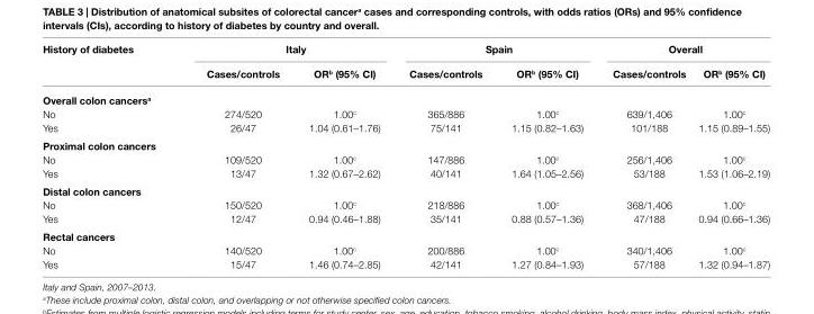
<table><thead><tr><td rowspan="2">history of diabetes</td><td colspan="2">italy</td><td colspan="2">spain</td><td colspan="2">Overall</td></tr><tr><td>cases/controls</td><td>Or<sup>b</sup> (95% ci)</td><td>cases/controls</td><td>Or<sup>b</sup> (95% ci)</td><td>cases/controls</td><td>Or<sup>b</sup> (95% ci)</td></tr></thead><tbody><tr><td colspan="7">Overall colon cancers<sup>a</sup></td></tr><tr><td>No</td><td>274/520</td><td>1.00<sup>c</sup></td><td>365/886</td><td>1.00<sup>c</sup></td><td>639/1,406</td><td>1.00<sup>c</sup></td></tr><tr><td>Yes</td><td>26/47</td><td>1.04 (0.61–1.76)</td><td>75/141</td><td>1.15 (0.82–1.63)</td><td>101/188</td><td>1.15 (0.89–1.55)</td></tr><tr><td colspan="7">Proximal colon cancers</td></tr><tr><td>No</td><td>109/520</td><td>1.00<sup>c</sup></td><td>147/886</td><td>1.00<sup>c</sup></td><td>256/1,406</td><td>1.00<sup>c</sup></td></tr><tr><td>Yes</td><td>13/47</td><td>1.32 (0.67–2.62)</td><td>40/141</td><td>1.64 (1.05–2.56)</td><td>53/188</td><td>1.53 (1.06–2.19)</td></tr><tr><td colspan="7">Distal colon cancers</td></tr><tr><td>No</td><td>150/520</td><td>1.00<sup>c</sup></td><td>218/886</td><td>1.00<sup>c</sup></td><td>368/1,406</td><td>1.00<sup>c</sup></td></tr><tr><td>Yes</td><td>12/47</td><td>0.94 (0.46–1.88)</td><td>35/141</td><td>0.88 (0.57–1.36)</td><td>47/188</td><td>0.94 (0.66–1.36)</td></tr><tr><td colspan="7">rectal cancers</td></tr><tr><td>No</td><td>140/520</td><td>1.00<sup>c</sup></td><td>200/886</td><td>1.00<sup>c</sup></td><td>340/1,406</td><td>1.00<sup>c</sup></td></tr><tr><td>Yes</td><td>15/47</td><td>1.46 (0.74–2.85)</td><td>42/141</td><td>1.27 (0.84–1.93)</td><td>57/188</td><td>1.32 (0.94–1.87)</td></tr></tbody></table>